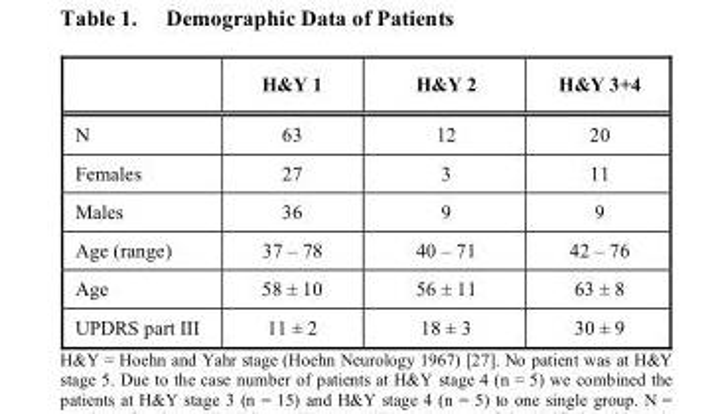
<table><thead><tr><td></td><td>H&amp;Y 1</td><td>H&amp;Y 2</td><td>H&amp;Y 3+4</td></tr></thead><tbody><tr><td>N</td><td>63</td><td>12</td><td>20</td></tr><tr><td>Females</td><td>27</td><td>3</td><td>11</td></tr><tr><td>Males</td><td>36</td><td>9</td><td>9</td></tr><tr><td>Age (range)</td><td>37 – 78</td><td>40 – 71</td><td>42 – 76</td></tr><tr><td>Age</td><td>58 ± 10</td><td>56 ± 11</td><td>63 ± 8</td></tr><tr><td>UPDRS part III</td><td>11 ± 2</td><td>18 ± 3</td><td>30 ± 9</td></tr></tbody></table>